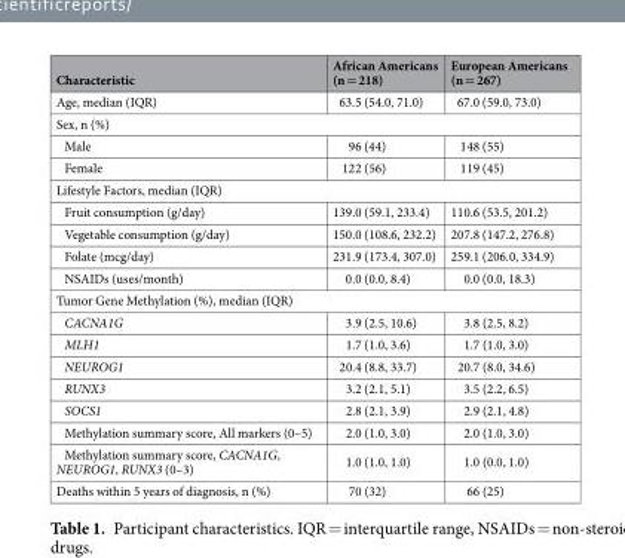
<table><thead><tr><td>Characteristic</td><td>African Americans (n = 218)</td><td>European Americans (n = 267)</td></tr></thead><tbody><tr><td>Age, median (IQR)</td><td>63.5 (54.0, 71.0)</td><td>67.0 (59.0, 73.0)</td></tr><tr><td colspan="3">Sex, n (%)</td></tr><tr><td>Male</td><td>96 (44)</td><td>148 (55)</td></tr><tr><td>Female</td><td>122 (56)</td><td>119 (45)</td></tr><tr><td colspan="3">Lifestyle Factors, median (IQR)</td></tr><tr><td>Fruit consumption (g/day)</td><td>139.0 (59.1, 233.4)</td><td>110.6 (53.5, 201.2)</td></tr><tr><td>Vegetable consumption (g/day)</td><td>150.0 (108.6, 232.2)</td><td>207.8 (147.2, 276.8)</td></tr><tr><td>Folate (mcg/day)</td><td>231.9 (173.4, 307.0)</td><td>259.1 (206.0, 334.9)</td></tr><tr><td>NSAIDs (uses/month)</td><td>0.0 (0.0, 8.4)</td><td>0.0 (0.0, 18.3)</td></tr><tr><td colspan="3">Tumor Gene Methylation (%), median (IQR)</td></tr><tr><td>CACNA1G</td><td>3.9 (2.5, 10.6)</td><td>3.8 (2.5, 8.2)</td></tr><tr><td>MLH1</td><td>1.7 (1.0, 3.6)</td><td>1.7 (1.0, 3.0)</td></tr><tr><td>NEUROG1</td><td>20.4 (8.8, 33.7)</td><td>20.7 (8.0, 34.6)</td></tr><tr><td>RUNX3</td><td>3.2 (2.1, 5.1)</td><td>3.5 (2.2, 6.5)</td></tr><tr><td>SOCS1</td><td>2.8 (2.1, 3.9)</td><td>2.9 (2.1, 4.8)</td></tr><tr><td>Methylation summary score, All markers (0–5)</td><td>2.0 (1.0, 3.0)</td><td>2.0 (1.0, 3.0)</td></tr><tr><td>Methylation summary score, CACNA1G, NEUROG1, RUNX3 (0–3)</td><td>1.0 (1.0, 1.0)</td><td>1.0 (0.0, 1.0)</td></tr><tr><td>Deaths within 5 years of diagnosis, n (%)</td><td>70 (32)</td><td>66 (25)</td></tr></tbody></table>